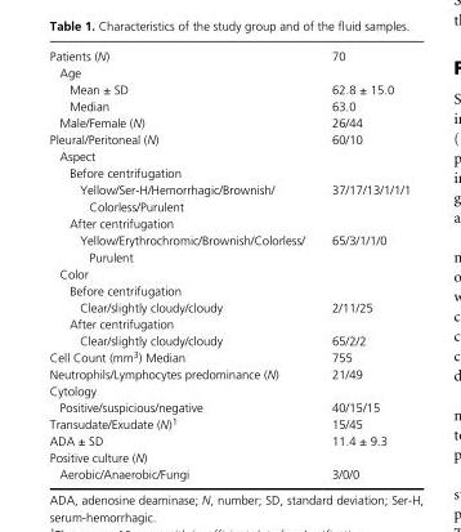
<table><tbody><tr><td>Patients (N)</td><td>70</td></tr><tr><td colspan="2">Age</td></tr><tr><td>Mean ± SD</td><td>62.8 ± 15.0</td></tr><tr><td>Median</td><td>63.0</td></tr><tr><td>Male/Female (N)</td><td>26/44</td></tr><tr><td>Pleural/Peritoneal (N)</td><td>60/10</td></tr><tr><td colspan="2">Aspect</td></tr><tr><td colspan="2">Before centrifugation</td></tr><tr><td>Yellow/Ser- H/Hemorrhagic/Brownish/ Colorless/Purulent</td><td>37/17/13/1/1/1</td></tr><tr><td colspan="2">After centrifugation</td></tr><tr><td>Yellow/Erythrochromic/Brownish/Colorless/ Purulent</td><td>65/3/1/1/0</td></tr><tr><td colspan="2">Color</td></tr><tr><td colspan="2">Before centrifugation</td></tr><tr><td>Clear/slightly cloudy/cloudy</td><td>2/11/25</td></tr><tr><td colspan="2">After centrifugation</td></tr><tr><td>Clear/slightly cloudy/cloudy</td><td>65/2/2</td></tr><tr><td>Cell Count (mm<sup>3</sup>) Median</td><td>755</td></tr><tr><td>Neutrophils/Lymphocytes predominance (N)</td><td>21/49</td></tr><tr><td colspan="2">Cytology</td></tr><tr><td>Positive/suspicious/negative</td><td>40/15/15</td></tr><tr><td>Transudate/Exudate (N)1</td><td>15/45</td></tr><tr><td>ADA ± SD</td><td>11.4 ± 9.3</td></tr><tr><td colspan="2">Positive culture (N)</td></tr><tr><td>Aerobic/Anaerobic/Fungi</td><td>3/0/0</td></tr></tbody></table>